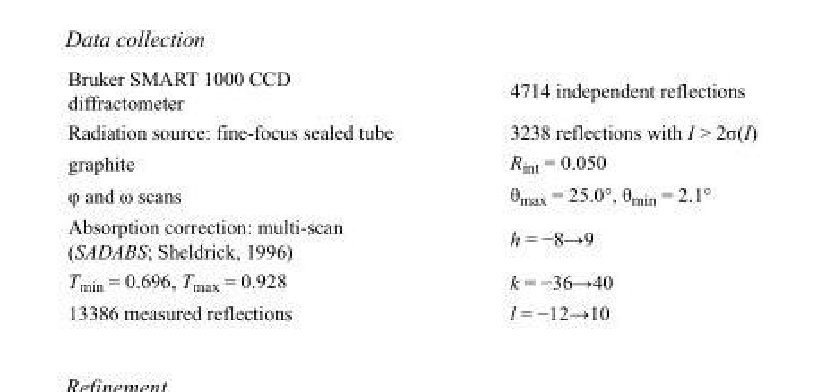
<table><tbody><tr><td>Bruker SMART 1000 CCD diffractometer</td><td>4714 independent reflections</td></tr><tr><td>Radiation source: fine-focus sealed tube</td><td>3238 reflections with I &gt; 2σ(I)</td></tr><tr><td>graphite</td><td>R<sub>int</sub> = 0.050</td></tr><tr><td>φ and ω scans</td><td>θ<sub>max</sub> = 25.0°, θ<sub>min</sub> = 2.1°</td></tr><tr><td>Absorption correction: multi-scan (SADABS; Sheldrick, 1996)</td><td>h = −8→9</td></tr><tr><td>T<sub>min</sub> = 0.696, T<sub>max</sub> = 0.928</td><td>k = −36→40</td></tr><tr><td>13386 measured reflections</td><td>l = −12→10</td></tr></tbody></table>